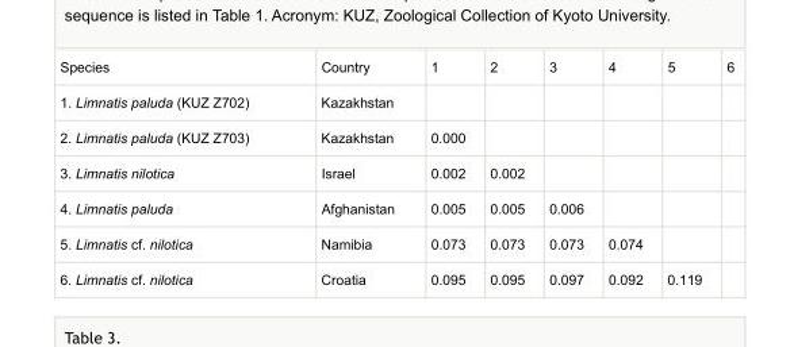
<table><tbody><tr><td>Species</td><td>Country</td><td>1</td><td>2</td><td>3</td><td>4</td><td>5</td><td>6</td></tr><tr><td>1. Limnatis paluda (KUZ Z702)</td><td>Kazakhstan</td><td></td><td></td><td></td><td></td><td></td><td></td></tr><tr><td>2. Limnatis paluda (KUZ Z703)</td><td>Kazakhstan</td><td>0.000</td><td></td><td></td><td></td><td></td><td></td></tr><tr><td>3. Limnatis nilotica</td><td>Israel</td><td>0.002</td><td>0.002</td><td></td><td></td><td></td><td></td></tr><tr><td>4. Limnatis paluda</td><td>Afghanistan</td><td>0.005</td><td>0.005</td><td>0.006</td><td></td><td></td><td></td></tr><tr><td>5. Limnatis cf. nilotica</td><td>Namibia</td><td>0.073</td><td>0.073</td><td>0.073</td><td>0.074</td><td></td><td></td></tr><tr><td>6. Limnatis cf. nilotica</td><td>Croatia</td><td>0.095</td><td>0.095</td><td>0.097</td><td>0.092</td><td>0.119</td><td></td></tr></tbody></table>